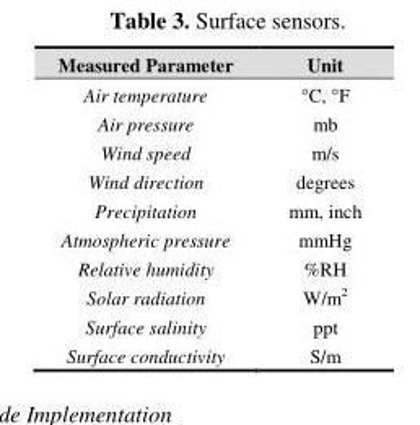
<table><thead><tr><td>Measured Parameter</td><td>Unit</td></tr></thead><tbody><tr><td>Air temperature</td><td>°C, °F</td></tr><tr><td>Air pressure</td><td>mb</td></tr><tr><td>Wind speed</td><td>m/s</td></tr><tr><td>Wind direction</td><td>degrees</td></tr><tr><td>Precipitation</td><td>mm, inch</td></tr><tr><td>Atmospheric pressure</td><td>mmHg</td></tr><tr><td>Relative humidity</td><td>%RH</td></tr><tr><td>Solar radiation</td><td>W/m<sup>2</sup></td></tr><tr><td>Surface salinity</td><td>ppt</td></tr><tr><td>Surface conductivity</td><td>S/m</td></tr></tbody></table>